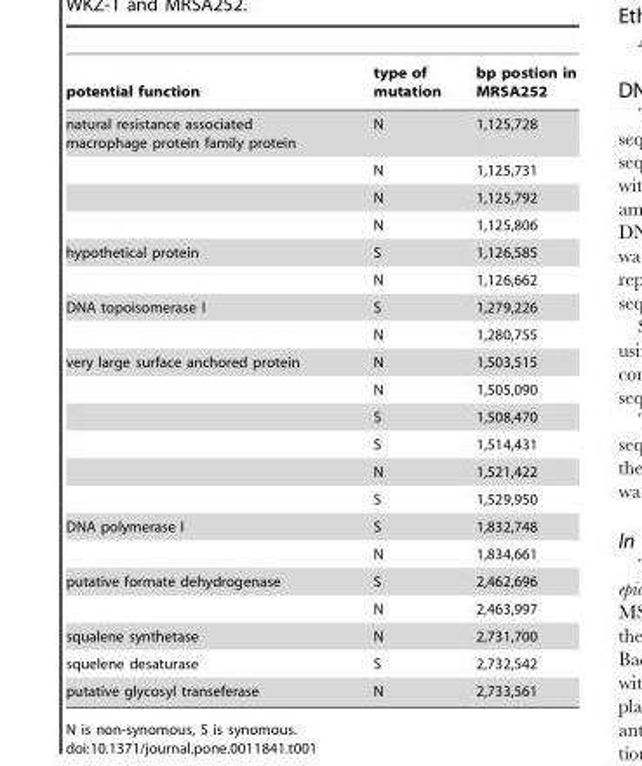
<table><thead><tr><td>potential function</td><td>type of mutation</td><td>bp postion in MRSA252</td></tr></thead><tbody><tr><td rowspan="4">natural resistance associated macrophage protein family protein</td><td>N</td><td>1,125,728</td></tr><tr><td>N</td><td>1,125,731</td></tr><tr><td>N</td><td>1,125,792</td></tr><tr><td>N</td><td>1,125,806</td></tr><tr><td rowspan="2">hypothetical protein</td><td>S</td><td>1,126,585</td></tr><tr><td>N</td><td>1,126,662</td></tr><tr><td rowspan="2">DNA topoisomerase I</td><td>S</td><td>1,279,226</td></tr><tr><td>N</td><td>1,280,755</td></tr><tr><td rowspan="6">very large surface anchored protein</td><td>N</td><td>1,503,515</td></tr><tr><td>N</td><td>1,505,090</td></tr><tr><td>S</td><td>1,508,470</td></tr><tr><td>S</td><td>1,514,431</td></tr><tr><td>N</td><td>1,521,422</td></tr><tr><td>S</td><td>1,529,950</td></tr><tr><td rowspan="2">DNA polymerase I</td><td>S</td><td>1,832,748</td></tr><tr><td>N</td><td>1,834,661</td></tr><tr><td rowspan="2">putative formate dehydrogenase</td><td>S</td><td>2,462,696</td></tr><tr><td>N</td><td>2,463,997</td></tr><tr><td>squalene synthetase</td><td>N</td><td>2,731,700</td></tr><tr><td>squelene desaturase</td><td>S</td><td>2,732,542</td></tr><tr><td>putative glycosyl transeferase</td><td>N</td><td>2,733,561</td></tr></tbody></table>